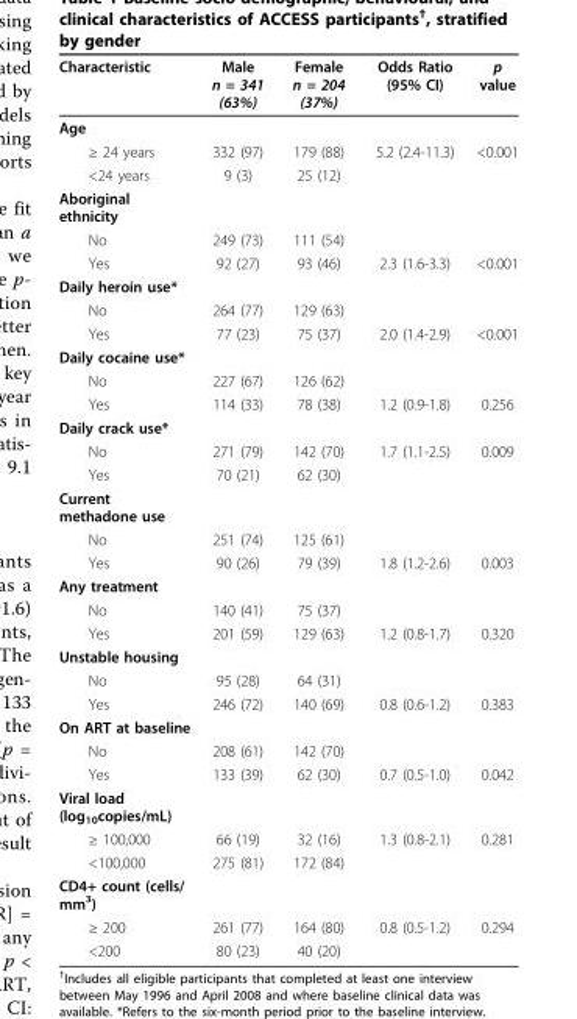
<table><thead><tr><td>Characteristic</td><td>Male n = 341 (63%)</td><td>Female n = 204 (37%)</td><td>Odds Ratio (95% CI)</td><td>p value</td></tr></thead><tbody><tr><td colspan="5">Age</td></tr><tr><td>≥ 24 years</td><td>332 (97)</td><td>179 (88)</td><td>5.2 (2.4-11.3)</td><td>&lt;0.001</td></tr><tr><td>&lt;24 years</td><td>9 (3)</td><td>25 (12)</td><td></td><td></td></tr><tr><td colspan="5">Aboriginal ethnicity</td></tr><tr><td>No</td><td>249 (73)</td><td>111 (54)</td><td></td><td></td></tr><tr><td>Yes</td><td>92 (27)</td><td>93 (46)</td><td>2.3 (1.6-3.3)</td><td>&lt;0.001</td></tr><tr><td colspan="5">Daily heroin use*</td></tr><tr><td>No</td><td>264 (77)</td><td>129 (63)</td><td></td><td></td></tr><tr><td>Yes</td><td>77 (23)</td><td>75 (37)</td><td>2.0 (1.4-2.9)</td><td>&lt;0.001</td></tr><tr><td colspan="5">Daily cocaine use*</td></tr><tr><td>No</td><td>227 (67)</td><td>126 (62)</td><td></td><td></td></tr><tr><td>Yes</td><td>114 (33)</td><td>78 (38)</td><td>1.2 (0.9-1.8)</td><td>0.256</td></tr><tr><td colspan="5">Daily crack use*</td></tr><tr><td>No</td><td>271 (79)</td><td>142 (70)</td><td>1.7 (1.1-2.5)</td><td>0.009</td></tr><tr><td>Yes</td><td>70 (21)</td><td>62 (30)</td><td></td><td></td></tr><tr><td colspan="5">Current methadone use</td></tr><tr><td>No</td><td>251 (74)</td><td>125 (61)</td><td></td><td></td></tr><tr><td>Yes</td><td>90 (26)</td><td>79 (39)</td><td>1.8 (1.2-2.6)</td><td>0.003</td></tr><tr><td colspan="5">Any treatment</td></tr><tr><td>No</td><td>140 (41)</td><td>75 (37)</td><td></td><td></td></tr><tr><td>Yes</td><td>201 (59)</td><td>129 (63)</td><td>1.2 (0.8-1.7)</td><td>0.320</td></tr><tr><td colspan="5">Unstable housing</td></tr><tr><td>No</td><td>95 (28)</td><td>64 (31)</td><td></td><td></td></tr><tr><td>Yes</td><td>246 (72)</td><td>140 (69)</td><td>0.8 (0.6-1.2)</td><td>0.383</td></tr><tr><td colspan="5">On ART at baseline</td></tr><tr><td>No</td><td>208 (61)</td><td>142 (70)</td><td></td><td></td></tr><tr><td>Yes</td><td>133 (39)</td><td>62 (30)</td><td>0.7 (0.5-1.0)</td><td>0.042</td></tr><tr><td colspan="5">Viral load (log<sub>10</sub>copies/mL)</td></tr><tr><td>≥ 100,000</td><td>66 (19)</td><td>32 (16)</td><td>1.3 (0.8-2.1)</td><td>0.281</td></tr><tr><td>&lt;100,000</td><td>275 (81)</td><td>172 (84)</td><td></td><td></td></tr><tr><td colspan="5">CD4+ count (cells/ mm<sup>3</sup>)</td></tr><tr><td>≥ 200</td><td>261 (77)</td><td>164 (80)</td><td>0.8 (0.5-1.2)</td><td>0.294</td></tr><tr><td>&lt;200</td><td>80 (23)</td><td>40 (20)</td><td></td><td></td></tr></tbody></table>